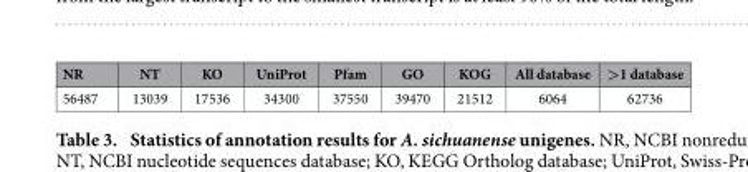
<table><thead><tr><td>NR</td><td>NT</td><td>KO</td><td>UniProt</td><td>Pfam</td><td>GO</td><td>KOG</td><td>All database</td><td>&gt;1 database</td></tr></thead><tbody><tr><td>56487</td><td>13039</td><td>17536</td><td>34300</td><td>37550</td><td>39470</td><td>21512</td><td>6064</td><td>62736</td></tr></tbody></table>